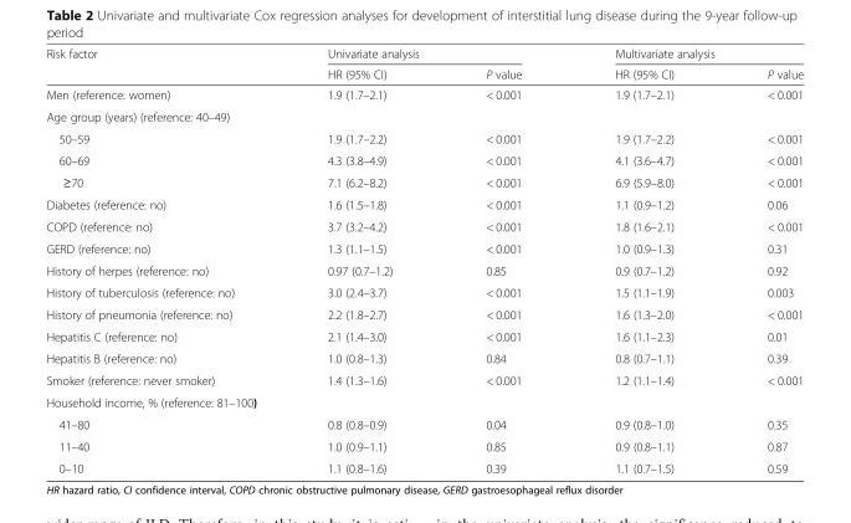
<table><thead><tr><td rowspan="2">Risk factor</td><td colspan="2">Univariate analysis</td><td colspan="2">Multivariate analysis</td></tr><tr><td>HR (95% CI)</td><td>P value</td><td>HR (95% CI)</td><td>P value</td></tr></thead><tbody><tr><td>Men (reference: women)</td><td>1.9 (1.7–2.1)</td><td>&lt; 0.001</td><td>1.9 (1.7–2.1)</td><td>&lt; 0.001</td></tr><tr><td colspan="5">Age group (years) (reference: 40–49)</td></tr><tr><td>50–59</td><td>1.9 (1.7–2.2)</td><td>&lt; 0.001</td><td>1.9 (1.7–2.2)</td><td>&lt; 0.001</td></tr><tr><td>60–69</td><td>4.3 (3.8–4.9)</td><td>&lt; 0.001</td><td>4.1 (3.6–4.7)</td><td>&lt; 0.001</td></tr><tr><td>≥70</td><td>7.1 (6.2–8.2)</td><td>&lt; 0.001</td><td>6.9 (5.9–8.0)</td><td>&lt; 0.001</td></tr><tr><td>Diabetes (reference: no)</td><td>1.6 (1.5–1.8)</td><td>&lt; 0.001</td><td>1.1 (0.9–1.2)</td><td>0.06</td></tr><tr><td>COPD (reference: no)</td><td>3.7 (3.2–4.2)</td><td>&lt; 0.001</td><td>1.8 (1.6–2.1)</td><td>&lt; 0.001</td></tr><tr><td>GERD (reference: no)</td><td>1.3 (1.1–1.5)</td><td>&lt; 0.001</td><td>1.0 (0.9–1.3)</td><td>0.31</td></tr><tr><td>History of herpes (reference: no)</td><td>0.97 (0.7–1.2)</td><td>0.85</td><td>0.9 (0.7–1.2)</td><td>0.92</td></tr><tr><td>History of tuberculosis (reference: no)</td><td>3.0 (2.4–3.7)</td><td>&lt; 0.001</td><td>1.5 (1.1–1.9)</td><td>0.003</td></tr><tr><td>History of pneumonia (reference: no)</td><td>2.2 (1.8–2.7)</td><td>&lt; 0.001</td><td>1.6 (1.3–2.0)</td><td>&lt; 0.001</td></tr><tr><td>Hepatitis C (reference: no)</td><td>2.1 (1.4–3.0)</td><td>&lt; 0.001</td><td>1.6 (1.1–2.3)</td><td>0.01</td></tr><tr><td>Hepatitis B (reference: no)</td><td>1.0 (0.8–1.3)</td><td>0.84</td><td>0.8 (0.7–1.1)</td><td>0.39</td></tr><tr><td>Smoker (reference: never smoker)</td><td>1.4 (1.3–1.6)</td><td>&lt; 0.001</td><td>1.2 (1.1–1.4)</td><td>&lt; 0.001</td></tr><tr><td colspan="5">Household income, % (reference: 81–100)</td></tr><tr><td>41–80</td><td>0.8 (0.8–0.9)</td><td>0.04</td><td>0.9 (0.8–1.0)</td><td>0.35</td></tr><tr><td>11–40</td><td>1.0 (0.9–1.1)</td><td>0.85</td><td>0.9 (0.8–1.1)</td><td>0.87</td></tr><tr><td>0–10</td><td>1.1 (0.8–1.6)</td><td>0.39</td><td>1.1 (0.7–1.5)</td><td>0.59</td></tr></tbody></table>